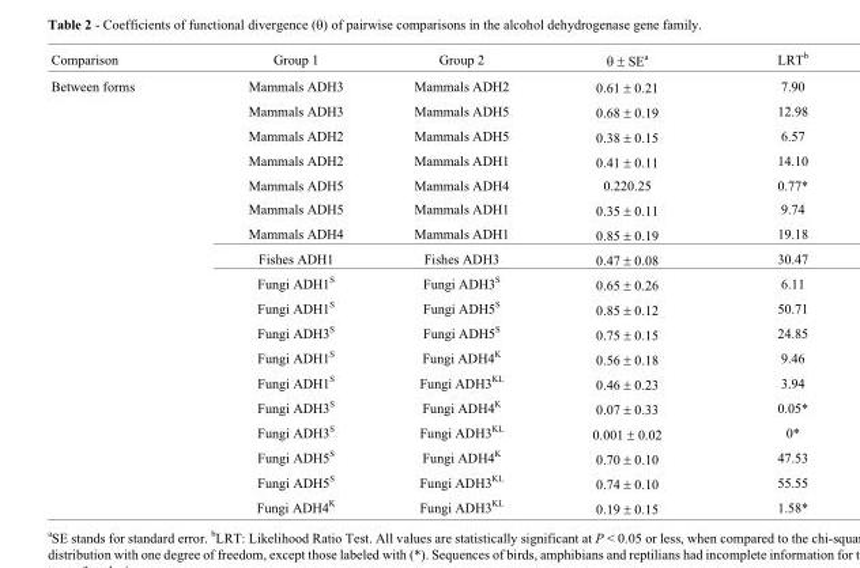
<table><thead><tr><td>Comparison</td><td>Group 1</td><td>Group 2</td><td>θ ± SE<sup>a</sup></td><td>LRT<sup>b</sup></td></tr></thead><tbody><tr><td rowspan="18">Between forms</td><td>Mammals ADH3</td><td>Mammals ADH2</td><td>0.61 ± 0.21</td><td>7.90</td></tr><tr><td>Mammals ADH3</td><td>Mammals ADH5</td><td>0.68 ± 0.19</td><td>12.98</td></tr><tr><td>Mammals ADH2</td><td>Mammals ADH5</td><td>0.38 ± 0.15</td><td>6.57</td></tr><tr><td>Mammals ADH2</td><td>Mammals ADH1</td><td>0.41 ± 0.11</td><td>14.10</td></tr><tr><td>Mammals ADH5</td><td>Mammals ADH4</td><td>0.220.25</td><td>0.77*</td></tr><tr><td>Mammals ADH5</td><td>Mammals ADH1</td><td>0.35 ± 0.11</td><td>9.74</td></tr><tr><td>Mammals ADH4</td><td>Mammals ADH1</td><td>0.85 ± 0.19</td><td>19.18</td></tr><tr><td>Fishes ADH1</td><td>Fishes ADH3</td><td>0.47 ± 0.08</td><td>30.47</td></tr><tr><td>Fungi ADH1<sup>S</sup></td><td>Fungi ADH3<sup>S</sup></td><td>0.65 ± 0.26</td><td>6.11</td></tr><tr><td>Fungi ADH1<sup>S</sup></td><td>Fungi ADH5<sup>S</sup></td><td>0.85 ± 0.12</td><td>50.71</td></tr><tr><td>Fungi ADH3<sup>S</sup></td><td>Fungi ADH5<sup>S</sup></td><td>0.75 ± 0.15</td><td>24.85</td></tr><tr><td>Fungi ADH1<sup>S</sup></td><td>Fungi ADH4<sup>K</sup></td><td>0.56 ± 0.18</td><td>9.46</td></tr><tr><td>Fungi ADH1<sup>S</sup></td><td>Fungi ADH3<sup>KL</sup></td><td>0.46 ± 0.23</td><td>3.94</td></tr><tr><td>Fungi ADH3<sup>S</sup></td><td>Fungi ADH4<sup>K</sup></td><td>0.07 ± 0.33</td><td>0.05*</td></tr><tr><td>Fungi ADH3<sup>S</sup></td><td>Fungi ADH3<sup>KL</sup></td><td>0.001 ± 0.02</td><td>0*</td></tr><tr><td>Fungi ADH5<sup>S</sup></td><td>Fungi ADH4<sup>K</sup></td><td>0.70 ± 0.10</td><td>47.53</td></tr><tr><td>Fungi ADH5<sup>S</sup></td><td>Fungi ADH3<sup>KL</sup></td><td>0.74 ± 0.10</td><td>55.55</td></tr><tr><td>Fungi ADH4<sup>K</sup></td><td>Fungi ADH3<sup>KL</sup></td><td>0.19 ± 0.15</td><td>1.58*</td></tr></tbody></table>